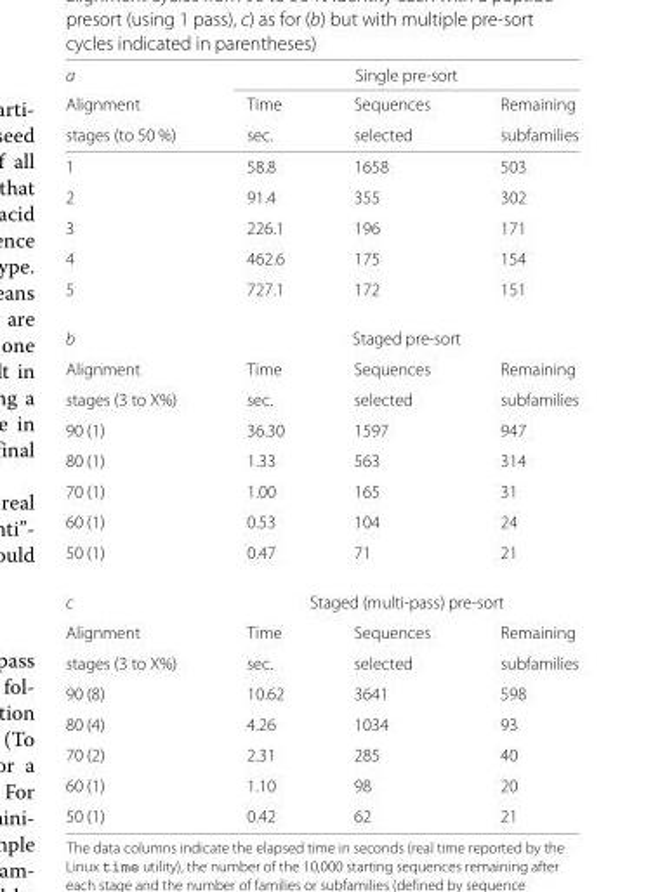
<table><thead><tr><td rowspan="3">a Alignment stages (to 50 %)</td><td colspan="3">Single pre-sort</td></tr><tr><td rowspan="2">Time sec.</td><td rowspan="2">Sequences selected</td><td rowspan="2">Remaining subfamilies</td></tr><tr></tr></thead><tbody><tr><td>1</td><td>58.8</td><td>1658</td><td>503</td></tr><tr><td>2</td><td>91.4</td><td>355</td><td>302</td></tr><tr><td>3</td><td>226.1</td><td>196</td><td>171</td></tr><tr><td>4</td><td>462.6</td><td>175</td><td>154</td></tr><tr><td>5</td><td>727.1</td><td>172</td><td>151</td></tr><tr><td>b</td><td colspan="3">Staged pre-sort</td></tr><tr><td>Alignment</td><td>Time</td><td>Sequences</td><td>Remaining</td></tr><tr><td>stages (3 to X%)</td><td>sec.</td><td>selected</td><td>subfamilies</td></tr><tr><td>90 (1)</td><td>36.30</td><td>1597</td><td>947</td></tr><tr><td>80 (1)</td><td>1.33</td><td>563</td><td>314</td></tr><tr><td>70 (1)</td><td>1.00</td><td>165</td><td>31</td></tr><tr><td>60 (1)</td><td>0.53</td><td>104</td><td>24</td></tr><tr><td>50 (1)</td><td>0.47</td><td>71</td><td>21</td></tr><tr><td>c</td><td colspan="3">Staged (multi-pass) pre-sort</td></tr><tr><td>Alignment</td><td>Time</td><td>Sequences</td><td>Remaining</td></tr><tr><td>stages (3 to X%)</td><td>sec.</td><td>selected</td><td>subfamilies</td></tr><tr><td>90 (8)</td><td>10.62</td><td>3641</td><td>598</td></tr><tr><td>80 (4)</td><td>4.26</td><td>1034</td><td>93</td></tr><tr><td>70 (2)</td><td>2.31</td><td>285</td><td>40</td></tr><tr><td>60 (1)</td><td>1.10</td><td>98</td><td>20</td></tr><tr><td>50 (1)</td><td>0.42</td><td>62</td><td>21</td></tr></tbody></table>